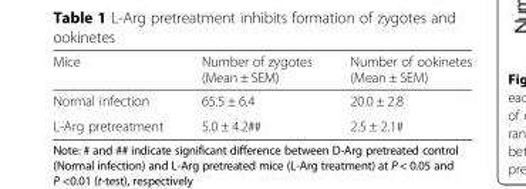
<table><thead><tr><td>Mice</td><td>Number of zygotes (Mean ± SEM)</td><td>Number of ookinetes (Mean ± SEM)</td></tr></thead><tbody><tr><td>Normal infection</td><td>65.5 ± 6.4</td><td>20.0 ± 2.8</td></tr><tr><td>L-Arg pretreatment</td><td>5.0 ± 4.2##</td><td>2.5 ± 2.1#</td></tr></tbody></table>